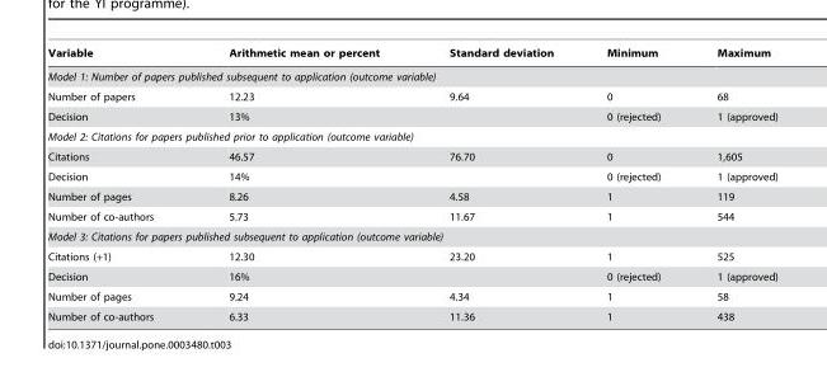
<table><thead><tr><td>Variable</td><td>Arithmetic mean or percent</td><td>Standard deviation</td><td>Minimum</td><td>Maximum</td></tr></thead><tbody><tr><td colspan="5">Model 1: Number of papers published subsequent to application (outcome variable)</td></tr><tr><td>Number of papers</td><td>12.23</td><td>9.64</td><td>0</td><td>68</td></tr><tr><td>Decision</td><td>13%</td><td></td><td>0 (rejected)</td><td>1 (approved)</td></tr><tr><td colspan="5">Model 2: Citations for papers published prior to application (outcome variable)</td></tr><tr><td>Citations</td><td>46.57</td><td>76.70</td><td>0</td><td>1,605</td></tr><tr><td>Decision</td><td>14%</td><td></td><td>0 (rejected)</td><td>1 (approved)</td></tr><tr><td>Number of pages</td><td>8.26</td><td>4.58</td><td>1</td><td>119</td></tr><tr><td>Number of co-authors</td><td>5.73</td><td>11.67</td><td>1</td><td>544</td></tr><tr><td colspan="5">Model 3: Citations for papers published subsequent to application (outcome variable)</td></tr><tr><td>Citations (+1)</td><td>12.30</td><td>23.20</td><td>1</td><td>525</td></tr><tr><td>Decision</td><td>16%</td><td></td><td>0 (rejected)</td><td>1 (approved)</td></tr><tr><td>Number of pages</td><td>9.24</td><td>4.34</td><td>1</td><td>58</td></tr><tr><td>Number of co-authors</td><td>6.33</td><td>11.36</td><td>1</td><td>438</td></tr></tbody></table>